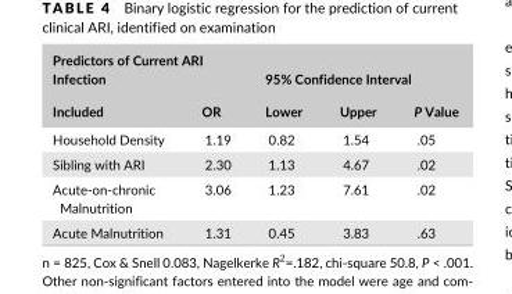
<table><thead><tr><td colspan="2">Predictors of Current ARI Infection</td><td colspan="3">95% Confidence Interval</td></tr><tr><td>Included</td><td>OR</td><td>Lower</td><td>Upper</td><td>P Value</td></tr></thead><tbody><tr><td>Household Density</td><td>1.19</td><td>0.82</td><td>1.54</td><td>.05</td></tr><tr><td>Sibling with ARI</td><td>2.30</td><td>1.13</td><td>4.67</td><td>.02</td></tr><tr><td>Acute- on- chronic Malnutrition</td><td>3.06</td><td>1.23</td><td>7.61</td><td>.02</td></tr><tr><td>Acute Malnutrition</td><td>1.31</td><td>0.45</td><td>3.83</td><td>.63</td></tr></tbody></table>